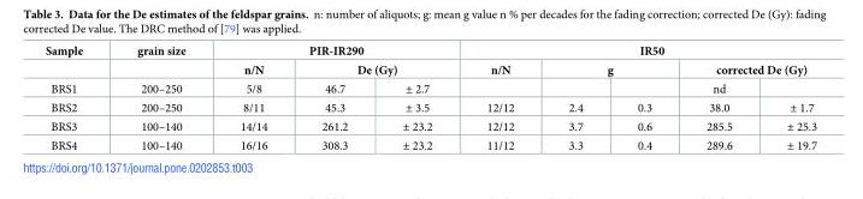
<table><thead><tr><td rowspan="3">Sample BRS1</td><td rowspan="3">grain size 200–250</td><td colspan="3">PIR-IR290</td><td colspan="5">IR50</td></tr><tr><td rowspan="2">n/N 5/8</td><td colspan="2">De (Gy)</td><td rowspan="2">n/N</td><td colspan="2">g</td><td colspan="2">corrected De (Gy)</td></tr><tr><td>46.7</td><td>± 2.7</td><td></td><td></td><td>nd</td><td></td></tr></thead><tbody><tr><td>BRS2</td><td>200–250</td><td>8/11</td><td>45.3</td><td>± 3.5</td><td>12/12</td><td>2.4</td><td>0.3</td><td>38.0</td><td>± 1.7</td></tr><tr><td>BRS3</td><td>100–140</td><td>14/14</td><td>261.2</td><td>± 23.2</td><td>12/12</td><td>3.7</td><td>0.6</td><td>285.5</td><td>± 25.3</td></tr><tr><td>BRS4</td><td>100–140</td><td>16/16</td><td>308.3</td><td>± 23.2</td><td>11/12</td><td>3.3</td><td>0.4</td><td>289.6</td><td>± 19.7</td></tr></tbody></table>